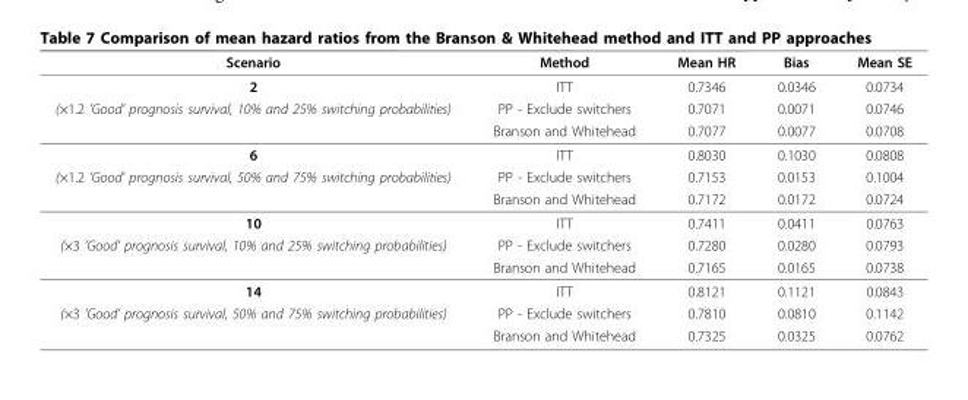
<table><thead><tr><td>Scenario</td><td>Method</td><td>Mean HR</td><td>Bias</td><td>Mean SE</td></tr></thead><tbody><tr><td>2</td><td>ITT</td><td>0.7346</td><td>0.0346</td><td>0.0734</td></tr><tr><td rowspan="2">(×1.2 ’Good’ prognosis survival, 10% and 25% switching probabilities)</td><td>PP - Exclude switchers</td><td>0.7071</td><td>0.0071</td><td>0.0746</td></tr><tr><td>Branson and Whitehead</td><td>0.7077</td><td>0.0077</td><td>0.0708</td></tr><tr><td>6</td><td>ITT</td><td>0.8030</td><td>0.1030</td><td>0.0808</td></tr><tr><td rowspan="2">(×1.2 ’Good’ prognosis survival, 50% and 75% switching probabilities)</td><td>PP - Exclude switchers</td><td>0.7153</td><td>0.0153</td><td>0.1004</td></tr><tr><td>Branson and Whitehead</td><td>0.7172</td><td>0.0172</td><td>0.0724</td></tr><tr><td>10</td><td>ITT</td><td>0.7411</td><td>0.0411</td><td>0.0763</td></tr><tr><td rowspan="2">(×3 ’Good’ prognosis survival, 10% and 25% switching probabilities)</td><td>PP - Exclude switchers</td><td>0.7280</td><td>0.0280</td><td>0.0793</td></tr><tr><td>Branson and Whitehead</td><td>0.7165</td><td>0.0165</td><td>0.0738</td></tr><tr><td>14</td><td>ITT</td><td>0.8121</td><td>0.1121</td><td>0.0843</td></tr><tr><td rowspan="2">(×3 ’Good’ prognosis survival, 50% and 75% switching probabilities)</td><td>PP - Exclude switchers</td><td>0.7810</td><td>0.0810</td><td>0.1142</td></tr><tr><td>Branson and Whitehead</td><td>0.7325</td><td>0.0325</td><td>0.0762</td></tr></tbody></table>